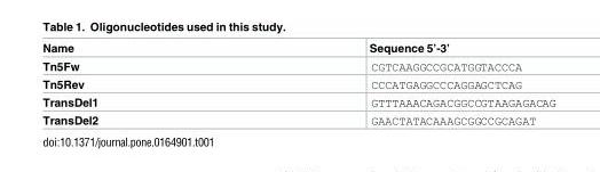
<table><thead><tr><td>Name</td><td>Sequence 5’-3’</td></tr></thead><tbody><tr><td>Tn5Fw</td><td>CGTCAAGGCCGCATGGTACCCA</td></tr><tr><td>Tn5Rev</td><td>CCCATGAGGCCCAGGAGCTCAG</td></tr><tr><td>TransDel1</td><td>GTTTAAACAGACGGCCGTAAGAGACAG</td></tr><tr><td>TransDel2</td><td>GAACTATACAAAGCGGCCGCAGAT</td></tr></tbody></table>